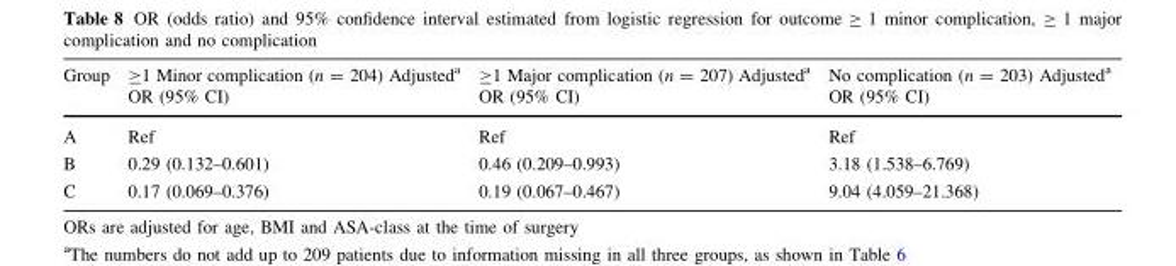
<table><thead><tr><td>Group</td><td>≥1 Minor complication (n = 204) Adjusted<sup>a</sup> OR (95% CI)</td><td>≥1 Major complication (n = 207) Adjusted<sup>a</sup> OR (95% CI)</td><td>No complication (n = 203) Adjusted<sup>a</sup> OR (95% CI)</td></tr></thead><tbody><tr><td>A</td><td>Ref</td><td>Ref</td><td>Ref</td></tr><tr><td>B</td><td>0.29 (0.132–0.601)</td><td>0.46 (0.209–0.993)</td><td>3.18 (1.538–6.769)</td></tr><tr><td>C</td><td>0.17 (0.069–0.376)</td><td>0.19 (0.067–0.467)</td><td>9.04 (4.059–21.368)</td></tr></tbody></table>